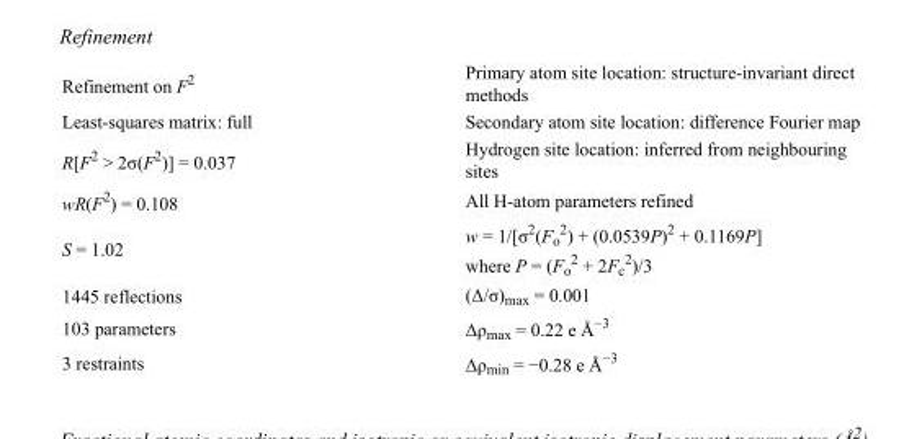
<table><tbody><tr><td>Refinement on F<sup>2</sup></td><td>Primary atom site location: structure-invariant direct methods</td></tr><tr><td>Least-squares matrix: full</td><td>Secondary atom site location: difference Fourier map</td></tr><tr><td>R[F<sup>2</sup> &gt; 2σ(F<sup>2</sup>)] = 0.037</td><td>Hydrogen site location: inferred from neighbouring sites</td></tr><tr><td>wR(F<sup>2</sup>) = 0.108</td><td>All H-atom parameters refined</td></tr><tr><td>S = 1.02</td><td>w = 1/[σ<sup>2</sup>(F<sub>o</sub> <sup>2</sup>) + (0.0539P)<sup>2</sup> + 0.1169P] where P = (F<sub>o</sub> <sup>2</sup> + 2F<sub>c</sub> <sup>2</sup>)/3</td></tr><tr><td>1445 reflections</td><td>(Δ/σ)<sub>max</sub> = 0.001</td></tr><tr><td>103 parameters</td><td>Δρ<sub>max</sub> = 0.22 e Å<sup>−3</sup></td></tr><tr><td>3 restraints</td><td>Δρ<sub>min</sub> = −0.28 e Å<sup>−3</sup></td></tr></tbody></table>